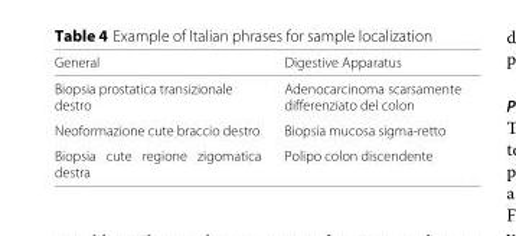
<table><thead><tr><td>General</td><td>Digestive Apparatus</td></tr></thead><tbody><tr><td>Biopsia prostatica transizionale destro</td><td>Adenocarcinoma scarsamente differenziato del colon</td></tr><tr><td>Neoformazione cute braccio destro</td><td>Biopsia mucosa sigma-retto</td></tr><tr><td>Biopsia cute regione zigomatica destra</td><td>Polipo colon discendente</td></tr></tbody></table>